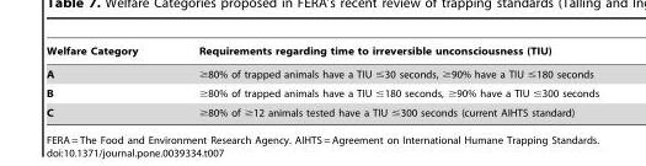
<table><thead><tr><td>Welfare Category</td><td>Requirements regarding time to irreversible unconsciousness (TIU)</td></tr></thead><tbody><tr><td>A</td><td>≥80% of trapped animals have a TIU ≤30 seconds, ≥90% have a TIU ≤180 seconds</td></tr><tr><td>B</td><td>≥80% of trapped animals have a TIU ≤180 seconds, ≥90% have a TIU ≤300 seconds</td></tr><tr><td>C</td><td>≥80% of ≥12 animals tested have a TIU ≤300 seconds (current AIHTS standard)</td></tr></tbody></table>